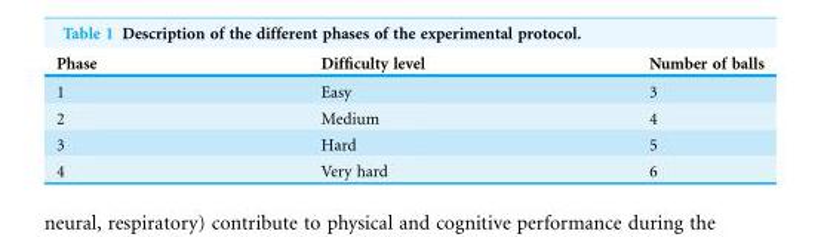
<table><thead><tr><td>Phase</td><td>Difficulty level</td><td>Number of balls</td></tr></thead><tbody><tr><td>1</td><td>Easy</td><td>3</td></tr><tr><td>2</td><td>Medium</td><td>4</td></tr><tr><td>3</td><td>Hard</td><td>5</td></tr><tr><td>4</td><td>Very hard</td><td>6</td></tr></tbody></table>